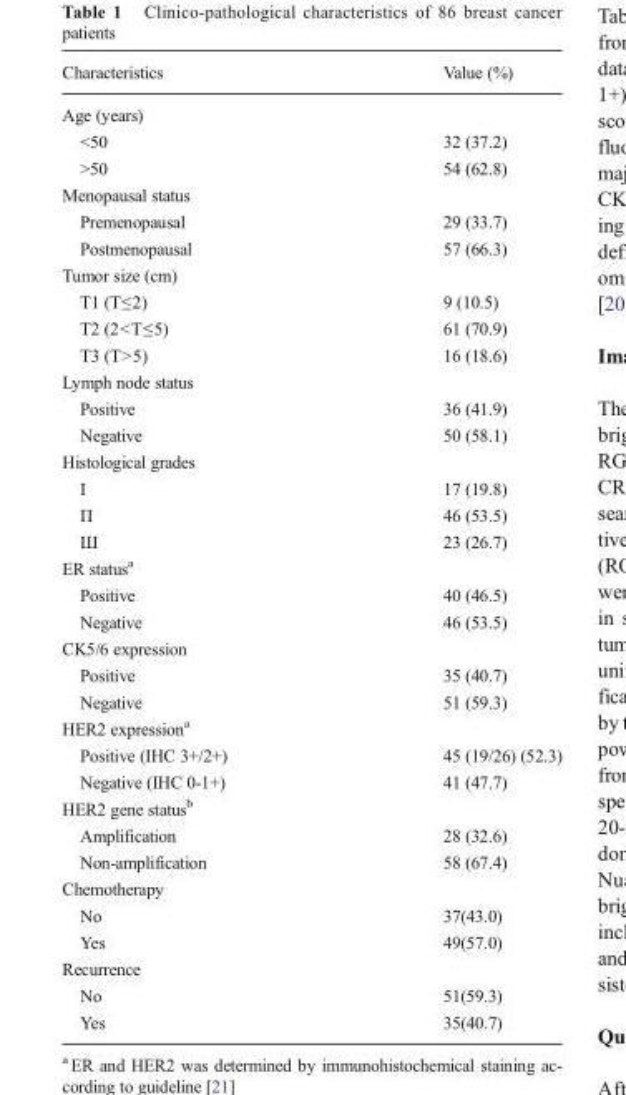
<table><thead><tr><td>Characteristics</td><td>Value (%)</td></tr></thead><tbody><tr><td colspan="2">Age (years)</td></tr><tr><td>&lt;50</td><td>32 (37.2)</td></tr><tr><td>&gt;50</td><td>54 (62.8)</td></tr><tr><td colspan="2">Menopausal status</td></tr><tr><td>Premenopausal</td><td>29 (33.7)</td></tr><tr><td>Postmenopausal</td><td>57 (66.3)</td></tr><tr><td colspan="2">Tumor size (cm)</td></tr><tr><td>T1 (T≤2)</td><td>9 (10.5)</td></tr><tr><td>T2 (2&lt;T≤5)</td><td>61 (70.9)</td></tr><tr><td>T3 (T&gt;5)</td><td>16 (18.6)</td></tr><tr><td colspan="2">Lymph node status</td></tr><tr><td>Positive</td><td>36 (41.9)</td></tr><tr><td>Negative</td><td>50 (58.1)</td></tr><tr><td colspan="2">Histological grades</td></tr><tr><td>І</td><td>17 (19.8)</td></tr><tr><td>П</td><td>46 (53.5)</td></tr><tr><td>Ш</td><td>23 (26.7)</td></tr><tr><td colspan="2">ER status<sup>a</sup></td></tr><tr><td>Positive</td><td>40 (46.5)</td></tr><tr><td>Negative</td><td>46 (53.5)</td></tr><tr><td colspan="2">CK5/6 expression</td></tr><tr><td>Positive</td><td>35 (40.7)</td></tr><tr><td>Negative</td><td>51 (59.3)</td></tr><tr><td colspan="2">HER2 expression<sup>a</sup></td></tr><tr><td>Positive (IHC 3+/2+)</td><td>45 (19/26) (52.3)</td></tr><tr><td>Negative (IHC 0-1+)</td><td>41 (47.7)</td></tr><tr><td colspan="2">HER2 gene status<sup>b</sup></td></tr><tr><td>Amplification</td><td>28 (32.6)</td></tr><tr><td>Non-amplification</td><td>58 (67.4)</td></tr><tr><td colspan="2">Chemotherapy</td></tr><tr><td>No</td><td>37(43.0)</td></tr><tr><td>Yes</td><td>49(57.0)</td></tr><tr><td colspan="2">Recurrence</td></tr><tr><td>No</td><td>51(59.3)</td></tr><tr><td>Yes</td><td>35(40.7)</td></tr></tbody></table>